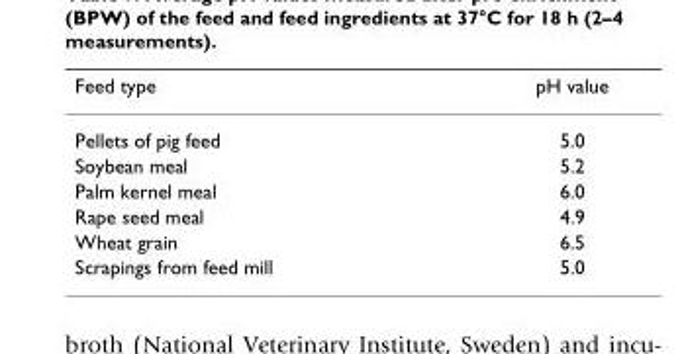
<table><thead><tr><td>Feed type</td><td>pH value</td></tr></thead><tbody><tr><td>Pellets of pig feed</td><td>5.0</td></tr><tr><td>Soybean meal</td><td>5.2</td></tr><tr><td>Palm kernel meal</td><td>6.0</td></tr><tr><td>Rape seed meal</td><td>4.9</td></tr><tr><td>Wheat grain</td><td>6.5</td></tr><tr><td>Scrapings from feed mill</td><td>5.0</td></tr></tbody></table>